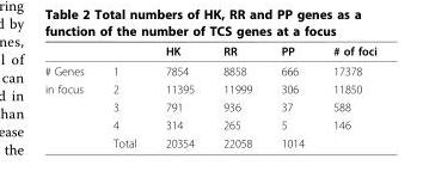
<table><thead><tr><td></td><td></td><td>HK</td><td>RR</td><td>PP</td><td># of foci</td></tr></thead><tbody><tr><td># Genes</td><td>1</td><td>7854</td><td>8858</td><td>666</td><td>17378</td></tr><tr><td rowspan="4">in focus</td><td>2</td><td>11395</td><td>11999</td><td>306</td><td>11850</td></tr><tr><td>3</td><td>791</td><td>936</td><td>37</td><td>588</td></tr><tr><td>4</td><td>314</td><td>265</td><td>5</td><td>146</td></tr><tr><td>Total</td><td>20354</td><td>22058</td><td>1014</td><td></td></tr></tbody></table>